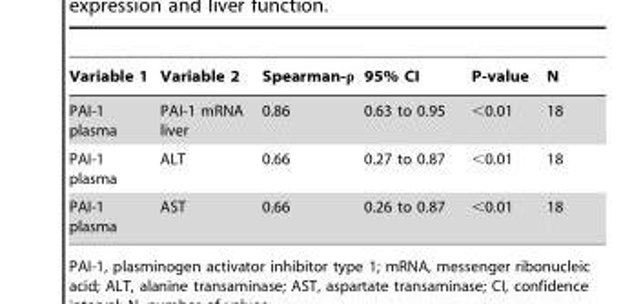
<table><thead><tr><td>Variable 1</td><td>Variable 2</td><td>Spearman-ρ</td><td>95% CI</td><td>P-value</td><td>N</td></tr></thead><tbody><tr><td>PAI-1 plasma</td><td>PAI-1 mRNA liver</td><td>0.86</td><td>0.63 to 0.95</td><td>&lt;0.01</td><td>18</td></tr><tr><td>PAI-1 plasma</td><td>ALT</td><td>0.66</td><td>0.27 to 0.87</td><td>&lt;0.01</td><td>18</td></tr><tr><td>PAI-1 plasma</td><td>AST</td><td>0.66</td><td>0.26 to 0.87</td><td>&lt;0.01</td><td>18</td></tr></tbody></table>